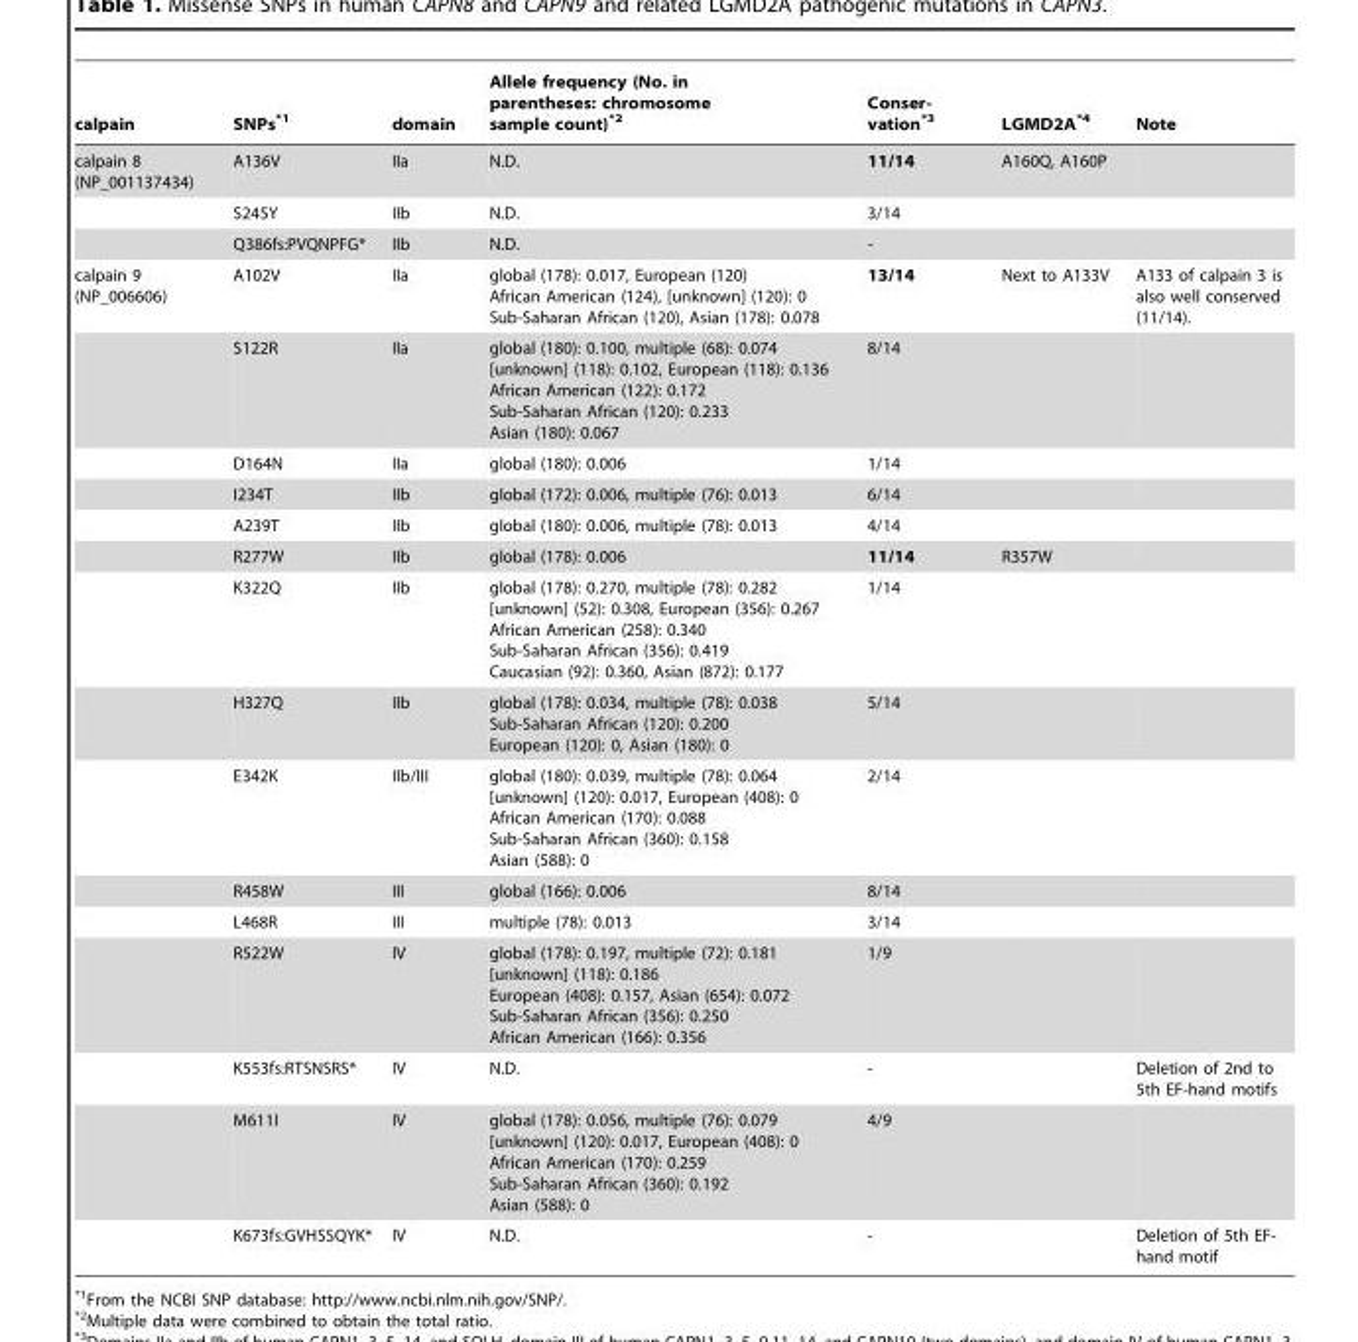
<table><thead><tr><td>calpain</td><td>SNPs*1</td><td>domain</td><td>Allele frequency (No. in parentheses: chromosome sample count)*2</td><td>Conser- vation*3</td><td>LGMD2A*4</td><td>Note</td></tr></thead><tbody><tr><td rowspan="3">calpain 8 (NP_001137434)</td><td>A136V</td><td>IIa</td><td>N.D.</td><td>11/14</td><td>A160Q, A160P</td><td></td></tr><tr><td>S245Y</td><td>IIb</td><td>N.D.</td><td>3/14</td><td></td><td></td></tr><tr><td>Q386fs:PVQNPFG*</td><td>IIb</td><td>N.D.</td><td>-</td><td></td><td></td></tr><tr><td rowspan="15">calpain 9 (NP_006606)</td><td>A102V</td><td>IIa</td><td>global (178): 0.017, European (120) African American (124), [unknown] (120): 0 Sub-Saharan African (120), Asian (178): 0.078</td><td>13/14</td><td>Next to A133V</td><td>A133 of calpain 3 is also well conserved (11/14).</td></tr><tr><td>S122R</td><td>IIa</td><td>global (180): 0.100, multiple (68): 0.074 [unknown] (118): 0.102, European (118): 0.136 African American (122): 0.172 Sub-Saharan African (120): 0.233 Asian (180): 0.067</td><td>8/14</td><td></td><td></td></tr><tr><td>D164N</td><td>IIa</td><td>global (180): 0.006</td><td>1/14</td><td></td><td></td></tr><tr><td>I234T</td><td>IIb</td><td>global (172): 0.006, multiple (76): 0.013</td><td>6/14</td><td></td><td></td></tr><tr><td>A239T</td><td>IIb</td><td>global (180): 0.006, multiple (78): 0.013</td><td>4/14</td><td></td><td></td></tr><tr><td>R277W</td><td>IIb</td><td>global (178): 0.006</td><td>11/14</td><td>R357W</td><td></td></tr><tr><td>K322Q</td><td>IIb</td><td>global (178): 0.270, multiple (78): 0.282 [unknown] (52): 0.308, European (356): 0.267 African American (258): 0.340 Sub-Saharan African (356): 0.419 Caucasian (92): 0.360, Asian (872): 0.177</td><td>1/14</td><td></td><td></td></tr><tr><td>H327Q</td><td>IIb</td><td>global (178): 0.034, multiple (78): 0.038 Sub-Saharan African (120): 0.200 European (120): 0, Asian (180): 0</td><td>5/14</td><td></td><td></td></tr><tr><td>E342K</td><td>IIb/III</td><td>global (180): 0.039, multiple (78): 0.064 [unknown] (120): 0.017, European (408): 0 African American (170): 0.088 Sub-Saharan African (360): 0.158 Asian (588): 0</td><td>2/14</td><td></td><td></td></tr><tr><td>R458W</td><td>III</td><td>global (166): 0.006</td><td>8/14</td><td></td><td></td></tr><tr><td>L468R</td><td>III</td><td>multiple (78): 0.013</td><td>3/14</td><td></td><td></td></tr><tr><td>R522W</td><td>IV</td><td>global (178): 0.197, multiple (72): 0.181 [unknown] (118): 0.186 European (408): 0.157, Asian (654): 0.072 Sub-Saharan African (356): 0.250 African American (166): 0.356</td><td>1/9</td><td></td><td></td></tr><tr><td>K553fs:RTSNSRS*</td><td>IV</td><td>N.D.</td><td>-</td><td></td><td>Deletion of 2nd to 5th EF-hand motifs</td></tr><tr><td>M611I</td><td>IV</td><td>global (178): 0.056, multiple (76): 0.079 [unknown] (120): 0.017, European (408): 0 African American (170): 0.259 Sub-Saharan African (360): 0.192 Asian (588): 0</td><td>4/9</td><td></td><td></td></tr><tr><td>K673fs:GVHSSQYK*</td><td>IV</td><td>N.D.</td><td>-</td><td></td><td>Deletion of 5th EF- hand motif</td></tr></tbody></table>